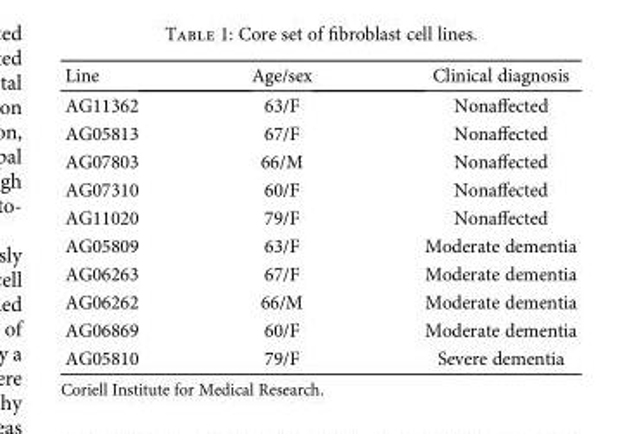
<table><thead><tr><td>Line</td><td>Age/sex</td><td>Clinical diagnosis</td></tr></thead><tbody><tr><td>AG11362</td><td>63/F</td><td>Nonaffected</td></tr><tr><td>AG05813</td><td>67/F</td><td>Nonaffected</td></tr><tr><td>AG07803</td><td>66/M</td><td>Nonaffected</td></tr><tr><td>AG07310</td><td>60/F</td><td>Nonaffected</td></tr><tr><td>AG11020</td><td>79/F</td><td>Nonaffected</td></tr><tr><td>AG05809</td><td>63/F</td><td>Moderate dementia</td></tr><tr><td>AG06263</td><td>67/F</td><td>Moderate dementia</td></tr><tr><td>AG06262</td><td>66/M</td><td>Moderate dementia</td></tr><tr><td>AG06869</td><td>60/F</td><td>Moderate dementia</td></tr><tr><td>AG05810</td><td>79/F</td><td>Severe dementia</td></tr></tbody></table>